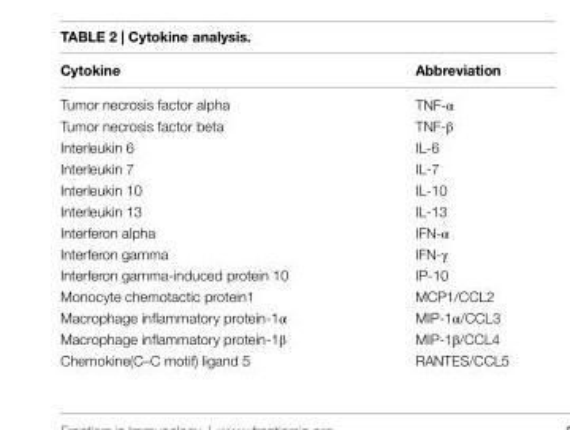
<table><thead><tr><td>cytokine</td><td>abbreviation</td></tr></thead><tbody><tr><td>Tumor necrosis factor alpha</td><td>TNF-α</td></tr><tr><td>Tumor necrosis factor beta</td><td>TNF-β</td></tr><tr><td>Interleukin 6</td><td>IL-6</td></tr><tr><td>Interleukin 7</td><td>IL-7</td></tr><tr><td>Interleukin 10</td><td>IL-10</td></tr><tr><td>Interleukin 13</td><td>IL-13</td></tr><tr><td>Interferon alpha</td><td>IFN-α</td></tr><tr><td>Interferon gamma</td><td>IFN-γ</td></tr><tr><td>Interferon gamma-induced protein 10</td><td>IP-10</td></tr><tr><td>Monocyte chemotactic protein1</td><td>MCP1/CCL2</td></tr><tr><td>Macrophage inflammatory protein-1α</td><td>MIP-1α/CCL3</td></tr><tr><td>Macrophage inflammatory protein-1β</td><td>MIP-1β/CCL4</td></tr><tr><td>Chemokine(C–C motif) ligand 5</td><td>RANTES/CCL5</td></tr></tbody></table>